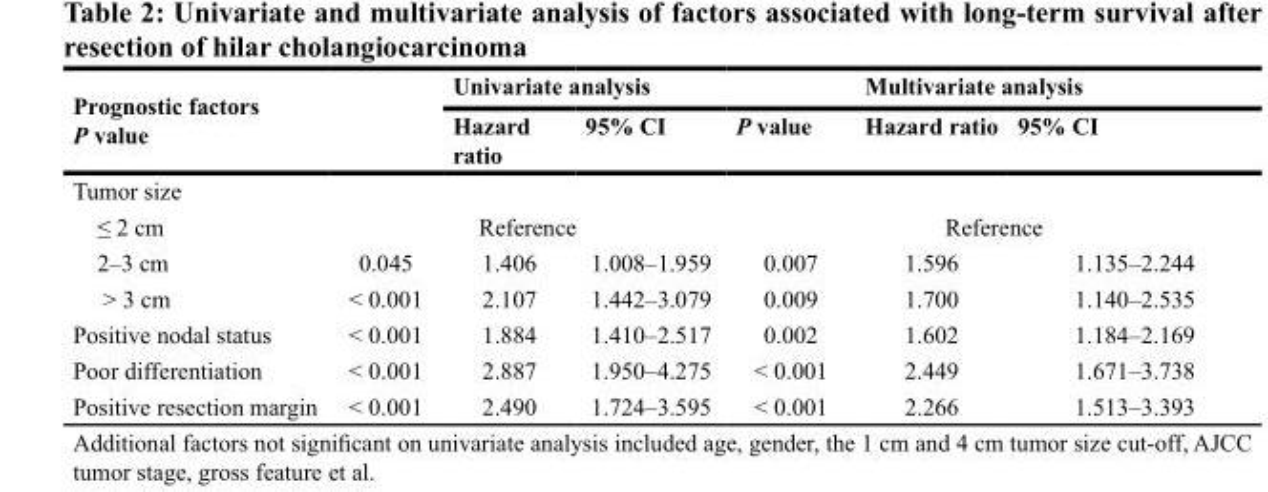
<table><thead><tr><td rowspan="2">Prognostic factors P value</td><td rowspan="2"></td><td colspan="2">Univariate analysis</td><td rowspan="2">P value</td><td colspan="2">Multivariate analysis</td></tr><tr><td>Hazard ratio</td><td>95% CI</td><td>Hazard ratio</td><td>95% CI</td></tr></thead><tbody><tr><td colspan="7">Tumor size</td></tr><tr><td>≤ 2 cm</td><td colspan="4">Reference</td><td colspan="2">Reference</td></tr><tr><td>2–3 cm</td><td>0.045</td><td>1.406</td><td>1.008–1.959</td><td>0.007</td><td>1.596</td><td>1.135–2.244</td></tr><tr><td>&gt; 3 cm</td><td>&lt; 0.001</td><td>2.107</td><td>1.442–3.079</td><td>0.009</td><td>1.700</td><td>1.140–2.535</td></tr><tr><td>Positive nodal status</td><td>&lt; 0.001</td><td>1.884</td><td>1.410–2.517</td><td>0.002</td><td>1.602</td><td>1.184–2.169</td></tr><tr><td>Poor differentiation</td><td>&lt; 0.001</td><td>2.887</td><td>1.950–4.275</td><td>&lt; 0.001</td><td>2.449</td><td>1.671–3.738</td></tr><tr><td>Positive resection margin</td><td>&lt; 0.001</td><td>2.490</td><td>1.724–3.595</td><td>&lt; 0.001</td><td>2.266</td><td>1.513–3.393</td></tr></tbody></table>